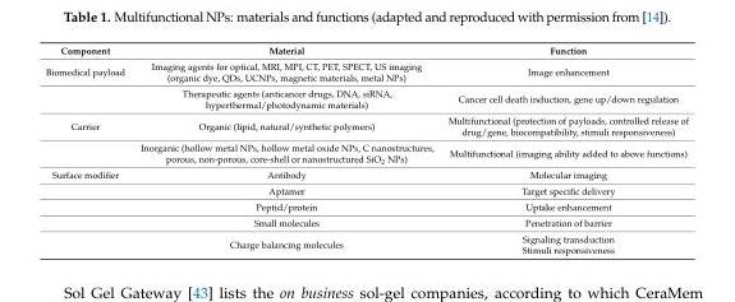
<table><thead><tr><td>Component</td><td>Material</td><td>Function</td></tr></thead><tbody><tr><td rowspan="2">Biomedical payload</td><td>Imaging agents for optical, MRI, MPI, CT, PET, SPECT, US imaging (organic dye, QDs, UCNPs, magnetic materials, metal NPs)</td><td>Image enhancement</td></tr><tr><td>Therapeutic agents (anticancer drugs, DNA, siRNA, hyperthermal/photodynamic materials)</td><td>Cancer cell death induction, gene up/down regulation</td></tr><tr><td rowspan="2">Carrier</td><td>Organic (lipid, natural/synthetic polymers)</td><td>Multifunctional (protection of payloads, controlled release of drug/gene, biocompatibility, stimuli responsiveness)</td></tr><tr><td>Inorganic (hollow metal NPs, hollow metal oxide NPs, C nanostructures, porous, non-porous, core-shell or nanostructured SiO<sub>2</sub> NPs)</td><td>Multifunctional (imaging ability added to above functions)</td></tr><tr><td rowspan="5">Surface modifier</td><td>Antibody</td><td>Molecular imaging</td></tr><tr><td>Aptamer</td><td>Target specific delivery</td></tr><tr><td>Peptid/protein</td><td>Uptake enhancement</td></tr><tr><td>Small molecules</td><td>Penetration of barrier</td></tr><tr><td>Charge balancing molecules</td><td>Signaling transduction Stimuli responsiveness</td></tr></tbody></table>